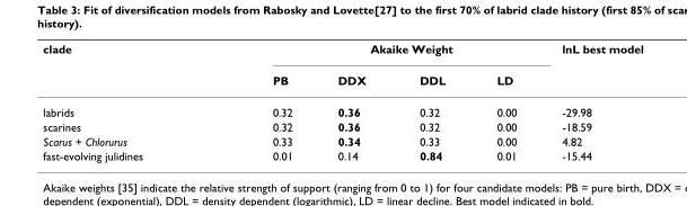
<table><thead><tr><td rowspan="2">clade</td><td colspan="4">Akaike Weight</td><td rowspan="2">lnL best model</td></tr><tr><td>PB</td><td>DDX</td><td>DDL</td><td>LD</td></tr></thead><tbody><tr><td>labrids</td><td>0.32</td><td>0.36</td><td>0.32</td><td>0.00</td><td>-29.98</td></tr><tr><td>scarines</td><td>0.32</td><td>0.36</td><td>0.32</td><td>0.00</td><td>-18.59</td></tr><tr><td>Scarus + Chlorurus</td><td>0.33</td><td>0.34</td><td>0.33</td><td>0.00</td><td>4.82</td></tr><tr><td>fast-evolving julidines</td><td>0.01</td><td>0.14</td><td>0.84</td><td>0.01</td><td>-15.44</td></tr></tbody></table>